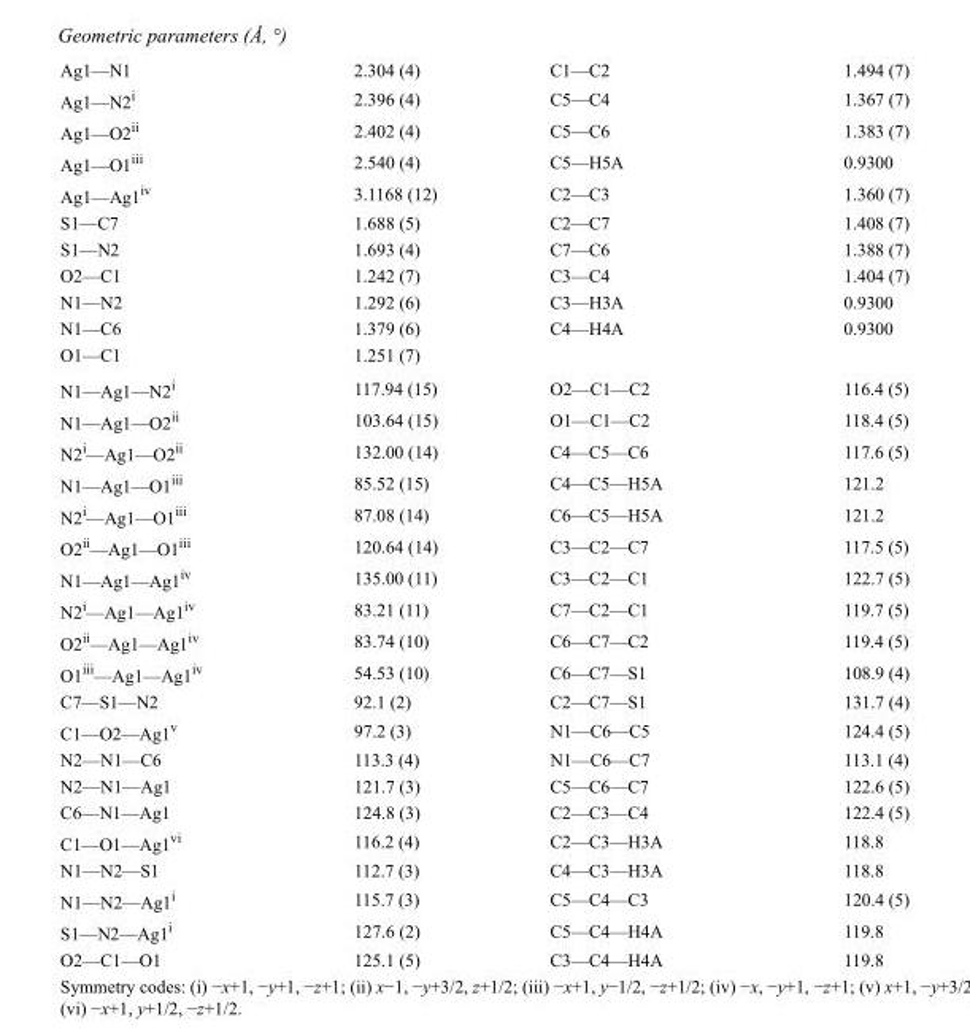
<table><tbody><tr><td>Ag1—N1</td><td>2.304 (4)</td><td>C1—C2</td><td>1.494 (7)</td></tr><tr><td>Ag1—N2<sup>i</sup></td><td>2.396 (4)</td><td>C5—C4</td><td>1.367 (7)</td></tr><tr><td>Ag1—O2<sup>ii</sup></td><td>2.402 (4)</td><td>C5—C6</td><td>1.383 (7)</td></tr><tr><td>Ag1—O1<sup>iii</sup></td><td>2.540 (4)</td><td>C5—H5A</td><td>0.9300</td></tr><tr><td>Ag1—Ag1<sup>iv</sup></td><td>3.1168 (12)</td><td>C2—C3</td><td>1.360 (7)</td></tr><tr><td>S1—C7</td><td>1.688 (5)</td><td>C2—C7</td><td>1.408 (7)</td></tr><tr><td>S1—N2</td><td>1.693 (4)</td><td>C7—C6</td><td>1.388 (7)</td></tr><tr><td>O2—C1</td><td>1.242 (7)</td><td>C3—C4</td><td>1.404 (7)</td></tr><tr><td>N1—N2</td><td>1.292 (6)</td><td>C3—H3A</td><td>0.9300</td></tr><tr><td>N1—C6</td><td>1.379 (6)</td><td>C4—H4A</td><td>0.9300</td></tr><tr><td>O1—C1</td><td>1.251 (7)</td><td></td><td></td></tr><tr><td>N1—Ag1—N2<sup>i</sup></td><td>117.94 (15)</td><td>O2—C1—C2</td><td>116.4 (5)</td></tr><tr><td>N1—Ag1—O2<sup>ii</sup></td><td>103.64 (15)</td><td>O1—C1—C2</td><td>118.4 (5)</td></tr><tr><td>N2<sup>i</sup>—Ag1—O2<sup>ii</sup></td><td>132.00 (14)</td><td>C4—C5—C6</td><td>117.6 (5)</td></tr><tr><td>N1—Ag1—O1<sup>iii</sup></td><td>85.52 (15)</td><td>C4—C5—H5A</td><td>121.2</td></tr><tr><td>N2<sup>i</sup>—Ag1—O1<sup>iii</sup></td><td>87.08 (14)</td><td>C6—C5—H5A</td><td>121.2</td></tr><tr><td>O2<sup>ii</sup>—Ag1—O1<sup>iii</sup></td><td>120.64 (14)</td><td>C3—C2—C7</td><td>117.5 (5)</td></tr><tr><td>N1—Ag1—Ag1<sup>iv</sup></td><td>135.00 (11)</td><td>C3—C2—C1</td><td>122.7 (5)</td></tr><tr><td>N2<sup>i</sup>—Ag1—Ag1<sup>iv</sup></td><td>83.21 (11)</td><td>C7—C2—C1</td><td>119.7 (5)</td></tr><tr><td>O2<sup>ii</sup>—Ag1—Ag1<sup>iv</sup></td><td>83.74 (10)</td><td>C6—C7—C2</td><td>119.4 (5)</td></tr><tr><td>O1<sup>iii</sup>—Ag1—Ag1<sup>iv</sup></td><td>54.53 (10)</td><td>C6—C7—S1</td><td>108.9 (4)</td></tr><tr><td>C7—S1—N2</td><td>92.1 (2)</td><td>C2—C7—S1</td><td>131.7 (4)</td></tr><tr><td>C1—O2—Ag1<sup>v</sup></td><td>97.2 (3)</td><td>N1—C6—C5</td><td>124.4 (5)</td></tr><tr><td>N2—N1—C6</td><td>113.3 (4)</td><td>N1—C6—C7</td><td>113.1 (4)</td></tr><tr><td>N2—N1—Ag1</td><td>121.7 (3)</td><td>C5—C6—C7</td><td>122.6 (5)</td></tr><tr><td>C6—N1—Ag1</td><td>124.8 (3)</td><td>C2—C3—C4</td><td>122.4 (5)</td></tr><tr><td>C1—O1—Ag1<sup>vi</sup></td><td>116.2 (4)</td><td>C2—C3—H3A</td><td>118.8</td></tr><tr><td>N1—N2—S1</td><td>112.7 (3)</td><td>C4—C3—H3A</td><td>118.8</td></tr><tr><td>N1—N2—Ag1<sup>i</sup></td><td>115.7 (3)</td><td>C5—C4—C3</td><td>120.4 (5)</td></tr><tr><td>S1—N2—Ag1<sup>i</sup></td><td>127.6 (2)</td><td>C5—C4—H4A</td><td>119.8</td></tr><tr><td>O2—C1—O1</td><td>125.1 (5)</td><td>C3—C4—H4A</td><td>119.8</td></tr></tbody></table>